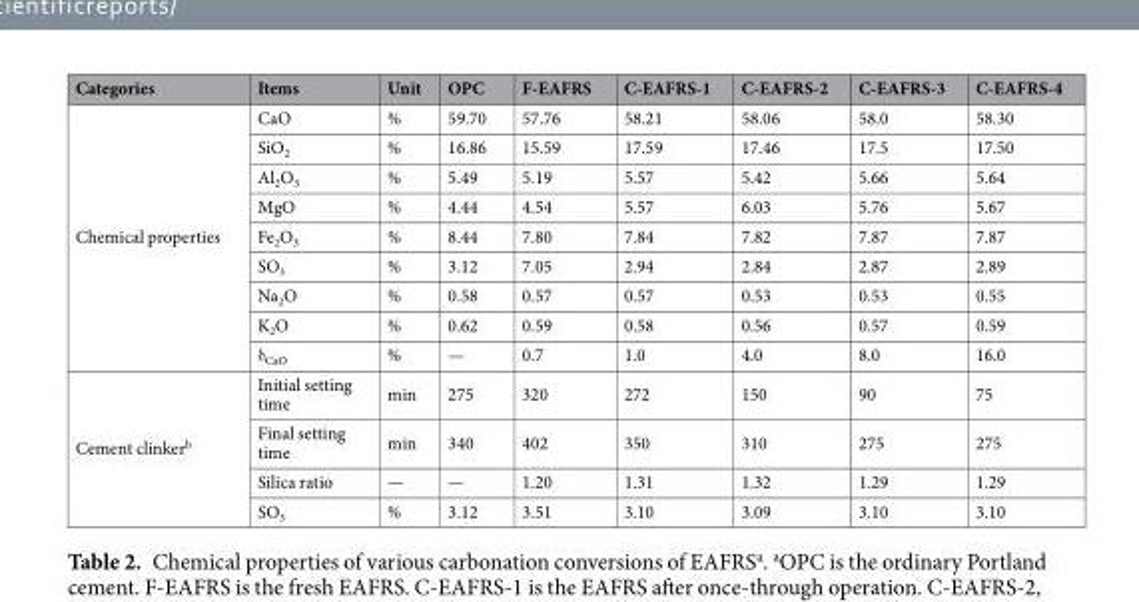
<table><thead><tr><td>Categories</td><td>Items</td><td>Unit</td><td>OPC</td><td>F-EAFRS</td><td>C-EAFRS-1</td><td>C-EAFRS-2</td><td>C-EAFRS-3</td><td>C-EAFRS-4</td></tr></thead><tbody><tr><td rowspan="9">Chemical properties</td><td>CaO</td><td>%</td><td>59.70</td><td>57.76</td><td>58.21</td><td>58.06</td><td>58.0</td><td>58.30</td></tr><tr><td>SiO<sub>2</sub></td><td>%</td><td>16.86</td><td>15.59</td><td>17.59</td><td>17.46</td><td>17.5</td><td>17.50</td></tr><tr><td>Al<sub>2</sub>O<sub>3</sub></td><td>%</td><td>5.49</td><td>5.19</td><td>5.57</td><td>5.42</td><td>5.66</td><td>5.64</td></tr><tr><td>MgO</td><td>%</td><td>4.44</td><td>4.54</td><td>5.57</td><td>6.03</td><td>5.76</td><td>5.67</td></tr><tr><td>Fe<sub>2</sub>O<sub>3</sub></td><td>%</td><td>8.44</td><td>7.80</td><td>7.84</td><td>7.82</td><td>7.87</td><td>7.87</td></tr><tr><td>SO<sub>3</sub></td><td>%</td><td>3.12</td><td>7.05</td><td>2.94</td><td>2.84</td><td>2.87</td><td>2.89</td></tr><tr><td>Na<sub>2</sub>O</td><td>%</td><td>0.58</td><td>0.57</td><td>0.57</td><td>0.53</td><td>0.53</td><td>0.55</td></tr><tr><td>K<sub>2</sub>O</td><td>%</td><td>0.62</td><td>0.59</td><td>0.58</td><td>0.56</td><td>0.57</td><td>0.59</td></tr><tr><td>δ<sub>CaO</sub></td><td>%</td><td>—</td><td>0.7</td><td>1.0</td><td>4.0</td><td>8.0</td><td>16.0</td></tr><tr><td rowspan="4">Cement clinker<sup>b</sup></td><td>Initial setting time</td><td>min</td><td>275</td><td>320</td><td>272</td><td>150</td><td>90</td><td>75</td></tr><tr><td>Final setting time</td><td>min</td><td>340</td><td>402</td><td>350</td><td>310</td><td>275</td><td>275</td></tr><tr><td>Silica ratio</td><td>—</td><td>—</td><td>1.20</td><td>1.31</td><td>1.32</td><td>1.29</td><td>1.29</td></tr><tr><td>SO<sub>3</sub></td><td>%</td><td>3.12</td><td>3.51</td><td>3.10</td><td>3.09</td><td>3.10</td><td>3.10</td></tr></tbody></table>